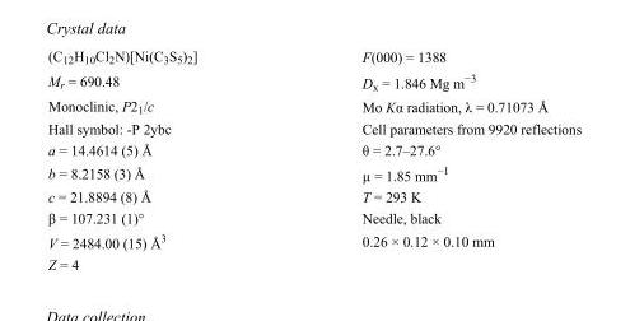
<table><tbody><tr><td>(C<sub>12</sub>H<sub>10</sub>Cl<sub>2</sub>N)[Ni(C<sub>3</sub>S<sub>5</sub>)<sub>2</sub>]</td><td>F(000) = 1388</td></tr><tr><td>M<sub>r</sub> = 690.48</td><td>D<sub>x</sub> = 1.846 Mg m<sup>−3</sup></td></tr><tr><td>Monoclinic, P2<sub>1</sub>/c</td><td>Mo Kα radiation, λ = 0.71073 Å</td></tr><tr><td>Hall symbol: -P 2ybc</td><td>Cell parameters from 9920 reflections</td></tr><tr><td>a = 14.4614 (5) Å</td><td>θ = 2.7–27.6°</td></tr><tr><td>b = 8.2158 (3) Å</td><td>µ = 1.85 mm<sup>−1</sup></td></tr><tr><td>c = 21.8894 (8) Å</td><td>T = 293 K</td></tr><tr><td>β = 107.231 (1)°</td><td>Needle, black</td></tr><tr><td>V = 2484.00 (15) Å<sup>3</sup></td><td>0.26 × 0.12 × 0.10 mm</td></tr><tr><td>Z = 4</td><td></td></tr></tbody></table>